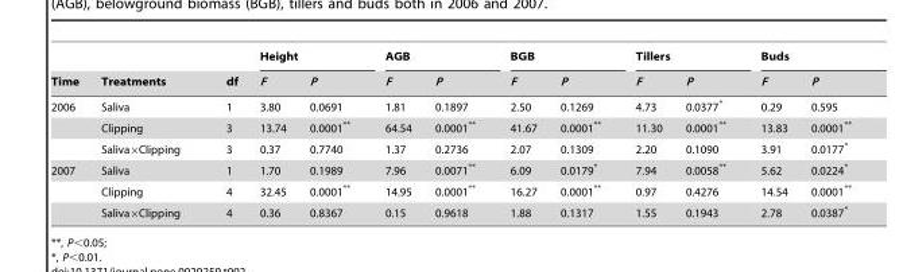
<table><thead><tr><td rowspan="2">Time</td><td rowspan="2">Treatments</td><td rowspan="2">df</td><td colspan="2">Height</td><td colspan="2">AGB</td><td colspan="2">BGB</td><td colspan="2">Tillers</td><td colspan="2">Buds</td></tr><tr><td>F</td><td>P</td><td>F</td><td>P</td><td>F</td><td>P</td><td>F</td><td>P</td><td>F</td><td>P</td></tr></thead><tbody><tr><td rowspan="3">2006</td><td>Saliva</td><td>1</td><td>3.80</td><td>0.0691</td><td>1.81</td><td>0.1897</td><td>2.50</td><td>0.1269</td><td>4.73</td><td>0.0377*</td><td>0.29</td><td>0.595</td></tr><tr><td>Clipping</td><td>3</td><td>13.74</td><td>0.0001**</td><td>64.54</td><td>0.0001**</td><td>41.67</td><td>0.0001**</td><td>11.30</td><td>0.0001**</td><td>13.83</td><td>0.0001**</td></tr><tr><td>Saliva×Clipping</td><td>3</td><td>0.37</td><td>0.7740</td><td>1.37</td><td>0.2736</td><td>2.07</td><td>0.1309</td><td>2.20</td><td>0.1090</td><td>3.91</td><td>0.0177*</td></tr><tr><td rowspan="3">2007</td><td>Saliva</td><td>1</td><td>1.70</td><td>0.1989</td><td>7.96</td><td>0.0071**</td><td>6.09</td><td>0.0179*</td><td>7.94</td><td>0.0058**</td><td>5.62</td><td>0.0224*</td></tr><tr><td>Clipping</td><td>4</td><td>32.45</td><td>0.0001**</td><td>14.95</td><td>0.0001**</td><td>16.27</td><td>0.0001**</td><td>0.97</td><td>0.4276</td><td>14.54</td><td>0.0001**</td></tr><tr><td>Saliva×Clipping</td><td>4</td><td>0.36</td><td>0.8367</td><td>0.15</td><td>0.9618</td><td>1.88</td><td>0.1317</td><td>1.55</td><td>0.1943</td><td>2.78</td><td>0.0387*</td></tr></tbody></table>